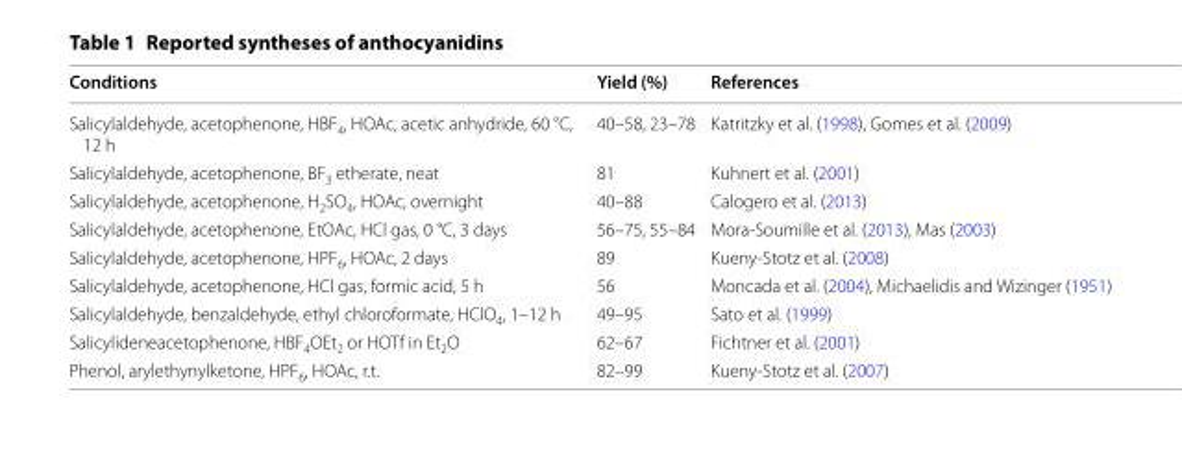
<table><thead><tr><td>Conditions</td><td>Yield (%)</td><td>References</td></tr></thead><tbody><tr><td>Salicylaldehyde, acetophenone, HBF<sub>4</sub>, HOAc, acetic anhydride, 60 °C, 12 h</td><td>40–58, 23–78</td><td>Katritzky et al. (1998), Gomes et al. (2009)</td></tr><tr><td>Salicylaldehyde, acetophenone, BF<sub>3</sub> etherate, neat</td><td>81</td><td>Kuhnert et al. (2001)</td></tr><tr><td>Salicylaldehyde, acetophenone, H<sub>2</sub>SO<sub>4</sub>, HOAc, overnight</td><td>40–88</td><td>Calogero et al. (2013)</td></tr><tr><td>Salicylaldehyde, acetophenone, EtOAc, HCl gas, 0 °C, 3 days</td><td>56–75, 55–84</td><td>Mora-Soumille et al. (2013), Mas (2003)</td></tr><tr><td>Salicylaldehyde, acetophenone, HPF<sub>6</sub>, HOAc, 2 days</td><td>89</td><td>Kueny-Stotz et al. (2008)</td></tr><tr><td>Salicylaldehyde, acetophenone, HCl gas, formic acid, 5 h</td><td>56</td><td>Moncada et al. (2004), Michaelidis and Wizinger (1951)</td></tr><tr><td>Salicylaldehyde, benzaldehyde, ethyl chloroformate, HClO<sub>4</sub>, 1–12 h</td><td>49–95</td><td>Sato et al. (1999)</td></tr><tr><td>Salicylideneacetophenone, HBF<sub>4</sub>OEt<sub>2</sub> or HOTf in Et<sub>2</sub>O</td><td>62–67</td><td>Fichtner et al. (2001)</td></tr><tr><td>Phenol, arylethynylketone, HPF<sub>6</sub>, HOAc, r.t.</td><td>82–99</td><td>Kueny-Stotz et al. (2007)</td></tr></tbody></table>